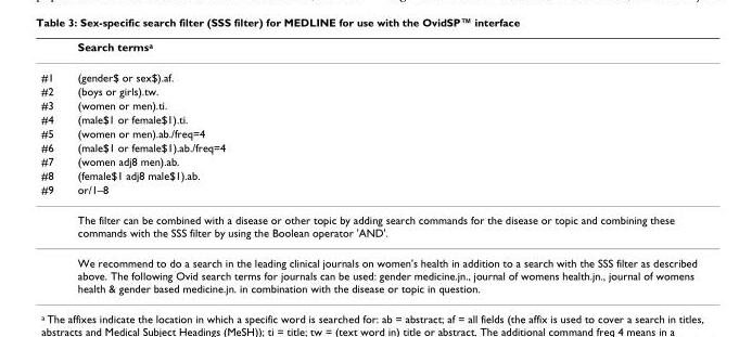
<table><thead><tr><td></td><td>Search terms<sup>a</sup></td></tr></thead><tbody><tr><td>#1</td><td>(gender$ or sex$).af.</td></tr><tr><td>#2</td><td>(boys or girls).tw.</td></tr><tr><td>#3</td><td>(women or men).ti.</td></tr><tr><td>#4</td><td>(male$1 or female$1).ti.</td></tr><tr><td>#5</td><td>(women or men).ab./freq=4</td></tr><tr><td>#6</td><td>(male$1 or female$1).ab./freq=4</td></tr><tr><td>#7</td><td>(women adj8 men).ab.</td></tr><tr><td>#8</td><td>(female$1 adj8 male$1).ab.</td></tr><tr><td rowspan="3">#9</td><td>or/1–8</td></tr><tr><td>The filter can be combined with a disease or other topic by adding search commands for the disease or topic and combining these commands with the SSS filter by using the Boolean operator &#x27;AND&#x27;.</td></tr><tr><td>We recommend to do a search in the leading clinical journals on women&#x27;s health in addition to a search with the SSS filter as described above. The following Ovid search terms for journals can be used: gender medicine.jn., journal of womens health.jn., journal of womens health &amp; gender based medicine.jn. in combination with the disease or topic in question.</td></tr></tbody></table>